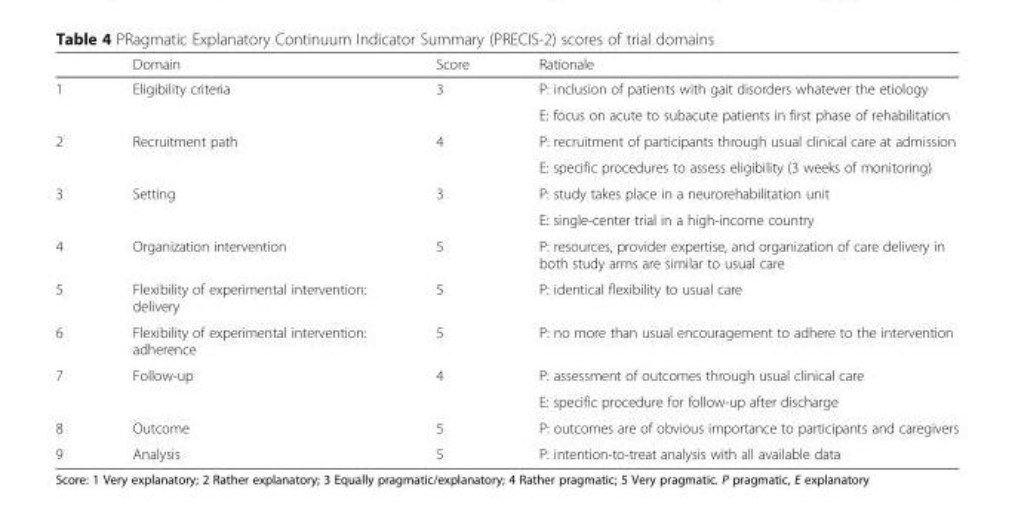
<table><thead><tr><td></td><td>Domain</td><td>Score</td><td>Rationale</td></tr></thead><tbody><tr><td rowspan="2">1</td><td rowspan="2">Eligibility criteria</td><td rowspan="2">3</td><td>P: inclusion of patients with gait disorders whatever the etiology</td></tr><tr><td>E: focus on acute to subacute patients in first phase of rehabilitation</td></tr><tr><td rowspan="2">2</td><td rowspan="2">Recruitment path</td><td rowspan="2">4</td><td>P: recruitment of participants through usual clinical care at admission</td></tr><tr><td>E: specific procedures to assess eligibility (3 weeks of monitoring)</td></tr><tr><td rowspan="2">3</td><td rowspan="2">Setting</td><td rowspan="2">3</td><td>P: study takes place in a neurorehabilitation unit</td></tr><tr><td>E: single-center trial in a high-income country</td></tr><tr><td>4</td><td>Organization intervention</td><td>5</td><td>P: resources, provider expertise, and organization of care delivery in both study arms are similar to usual care</td></tr><tr><td>5</td><td>Flexibility of experimental intervention: delivery</td><td>5</td><td>P: identical flexibility to usual care</td></tr><tr><td>6</td><td>Flexibility of experimental intervention: adherence</td><td>5</td><td>P: no more than usual encouragement to adhere to the intervention</td></tr><tr><td rowspan="2">7</td><td rowspan="2">Follow-up</td><td rowspan="2">4</td><td>P: assessment of outcomes through usual clinical care</td></tr><tr><td>E: specific procedure for follow-up after discharge</td></tr><tr><td>8</td><td>Outcome</td><td>5</td><td>P: outcomes are of obvious importance to participants and caregivers</td></tr><tr><td>9</td><td>Analysis</td><td>5</td><td>P: intention-to-treat analysis with all available data</td></tr></tbody></table>